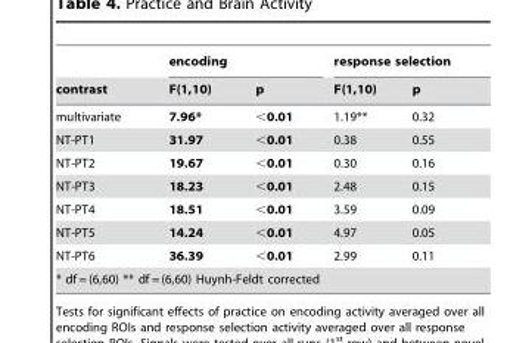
<table><thead><tr><td rowspan="2">contrast</td><td colspan="2">encoding</td><td colspan="2">response selection</td></tr><tr><td>F(1,10)</td><td>p</td><td>F(1,10)</td><td>p</td></tr></thead><tbody><tr><td>multivariate</td><td>7.96*</td><td>&lt;0.01</td><td>1.19**</td><td>0.32</td></tr><tr><td>NT-PT1</td><td>31.97</td><td>&lt;0.01</td><td>0.38</td><td>0.55</td></tr><tr><td>NT-PT2</td><td>19.67</td><td>&lt;0.01</td><td>0.30</td><td>0.16</td></tr><tr><td>NT-PT3</td><td>18.23</td><td>&lt;0.01</td><td>2.48</td><td>0.15</td></tr><tr><td>NT-PT4</td><td>18.51</td><td>&lt;0.01</td><td>3.59</td><td>0.09</td></tr><tr><td>NT-PT5</td><td>14.24</td><td>&lt;0.01</td><td>4.97</td><td>0.05</td></tr><tr><td>NT-PT6</td><td>36.39</td><td>&lt;0.01</td><td>2.99</td><td>0.11</td></tr><tr><td colspan="5">* df = (6,60) ** df = (6,60) Huynh-Feldt corrected</td></tr></tbody></table>